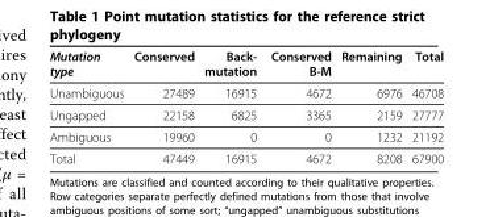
<table><thead><tr><td>Mutation type</td><td>Conserved</td><td>Back- mutation</td><td>Conserved B-M</td><td>Remaining</td><td>Total</td></tr></thead><tbody><tr><td>Unambiguous</td><td>27489</td><td>16915</td><td>4672</td><td>6976</td><td>46708</td></tr><tr><td>Ungapped</td><td>22158</td><td>6825</td><td>3365</td><td>2159</td><td>27777</td></tr><tr><td>Ambiguous</td><td>19960</td><td>0</td><td>0</td><td>1232</td><td>21192</td></tr><tr><td>Total</td><td>47449</td><td>16915</td><td>4672</td><td>8208</td><td>67900</td></tr></tbody></table>